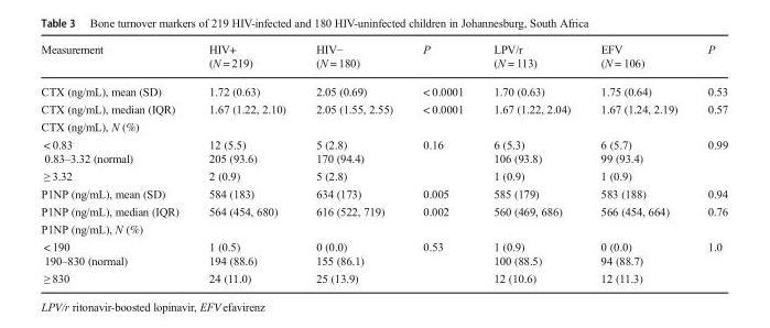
<table><thead><tr><td>Measurement</td><td>HIV+ (N = 219)</td><td>HIV− (N = 180)</td><td>P</td><td>LPV/r (N = 113)</td><td>EFV (N = 106)</td><td>P</td></tr></thead><tbody><tr><td>CTX (ng/mL), mean (SD)</td><td>1.72 (0.63)</td><td>2.05 (0.69)</td><td>&lt; 0.0001</td><td>1.70 (0.63)</td><td>1.75 (0.64)</td><td>0.53</td></tr><tr><td>CTX (ng/mL), median (IQR)</td><td>1.67 (1.22, 2.10)</td><td>2.05 (1.55, 2.55)</td><td>&lt; 0.0001</td><td>1.67 (1.22, 2.04)</td><td>1.67 (1.24, 2.19)</td><td>0.57</td></tr><tr><td colspan="7">CTX (ng/mL), N (%)</td></tr><tr><td>&lt; 0.83</td><td>12 (5.5)</td><td>5 (2.8)</td><td>0.16</td><td>6 (5.3)</td><td>6 (5.7)</td><td rowspan="3">0.99</td></tr><tr><td>0.83–3.32 (normal)</td><td>205 (93.6)</td><td>170 (94.4)</td><td></td><td>106 (93.8)</td><td>99 (93.4)</td></tr><tr><td>≥ 3.32</td><td>2 (0.9)</td><td>5 (2.8)</td><td></td><td>1 (0.9)</td><td>1 (0.9)</td></tr><tr><td>P1NP (ng/mL), mean (SD)</td><td>584 (183)</td><td>634 (173)</td><td>0.005</td><td>585 (179)</td><td>583 (188)</td><td>0.94</td></tr><tr><td>P1NP (ng/mL), median (IQR)</td><td>564 (454, 680)</td><td>616 (522, 719)</td><td>0.002</td><td>560 (469, 686)</td><td>566 (454, 664)</td><td>0.76</td></tr><tr><td colspan="7">P1NP (ng/mL), N (%)</td></tr><tr><td>&lt; 190</td><td>1 (0.5)</td><td>0 (0.0)</td><td>0.53</td><td>1 (0.9)</td><td>0 (0.0)</td><td rowspan="3">1.0</td></tr><tr><td>190–830 (normal)</td><td>194 (88.6)</td><td>155 (86.1)</td><td></td><td>100 (88.5)</td><td>94 (88.7)</td></tr><tr><td>≥ 830</td><td>24 (11.0)</td><td>25 (13.9)</td><td></td><td>12 (10.6)</td><td>12 (11.3)</td></tr></tbody></table>